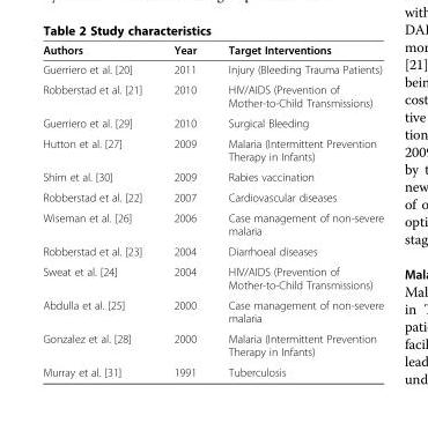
<table><thead><tr><td>Authors</td><td>Year</td><td>Target Interventions</td></tr></thead><tbody><tr><td>Guerriero et al. [20]</td><td>2011</td><td>Injury (Bleeding Trauma Patients)</td></tr><tr><td>Robberstad et al. [21]</td><td>2010</td><td>HIV/AIDS (Prevention of Mother-to-Child Transmissions)</td></tr><tr><td>Guerriero et al. [29]</td><td>2010</td><td>Surgical Bleeding</td></tr><tr><td>Hutton et al. [27]</td><td>2009</td><td>Malaria (Intermittent Prevention Therapy in Infants)</td></tr><tr><td>Shim et al. [30]</td><td>2009</td><td>Rabies vaccination</td></tr><tr><td>Robberstad et al. [22]</td><td>2007</td><td>Cardiovascular diseases</td></tr><tr><td>Wiseman et al. [26]</td><td>2006</td><td>Case management of non-severe malaria</td></tr><tr><td>Robberstad et al. [23]</td><td>2004</td><td>Diarrhoeal diseases</td></tr><tr><td>Sweat et al. [24]</td><td>2004</td><td>HIV/AIDS (Prevention of Mother-to-Child Transmissions)</td></tr><tr><td>Abdulla et al. [25]</td><td>2000</td><td>Case management of non-severe malaria</td></tr><tr><td>Gonzalez et al. [28]</td><td>2000</td><td>Malaria (Intermittent Prevention Therapy in Infants)</td></tr><tr><td>Murray et al. [31]</td><td>1991</td><td>Tuberculosis</td></tr></tbody></table>